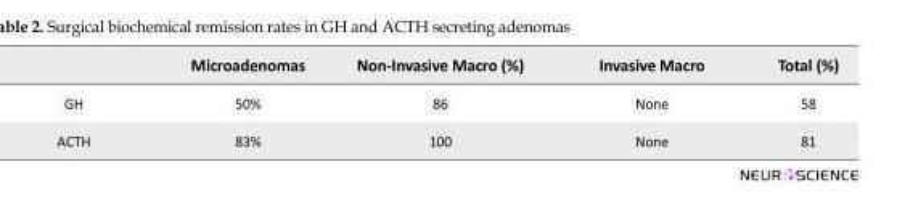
<table><thead><tr><td></td><td>Microadenomas</td><td>Non-Invasive Macro (%)</td><td>Invasive Macro</td><td>Total (%)</td></tr></thead><tbody><tr><td>GH</td><td>50%</td><td>86</td><td>None</td><td>58</td></tr><tr><td>ACTH</td><td>83%</td><td>100</td><td>None</td><td>81</td></tr></tbody></table>